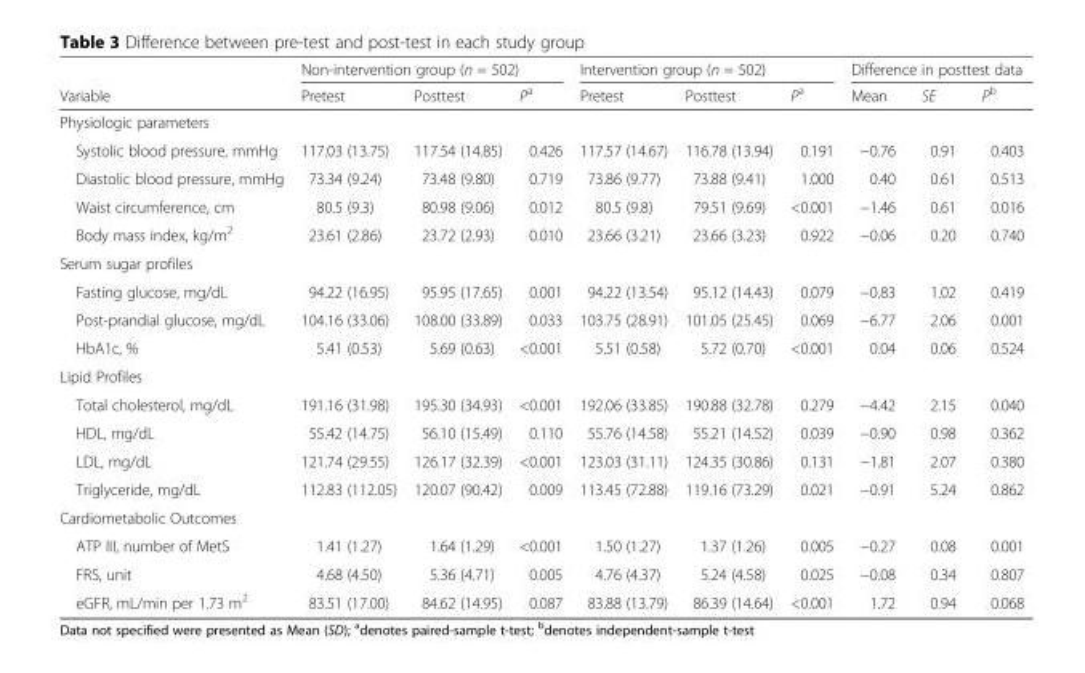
<table><thead><tr><td rowspan="2">Variable</td><td colspan="3">Non-intervention group (n = 502)</td><td colspan="3">Intervention group (n = 502)</td><td colspan="3">Difference in posttest data</td></tr><tr><td>Pretest</td><td>Posttest</td><td>P<sup>a</sup></td><td>Pretest</td><td>Posttest</td><td>P<sup>a</sup></td><td>Mean</td><td>SE</td><td>P<sup>b</sup></td></tr></thead><tbody><tr><td colspan="10">Physiologic parameters</td></tr><tr><td>Systolic blood pressure, mmHg</td><td>117.03 (13.75)</td><td>117.54 (14.85)</td><td>0.426</td><td>117.57 (14.67)</td><td>116.78 (13.94)</td><td>0.191</td><td>−0.76</td><td>0.91</td><td>0.403</td></tr><tr><td>Diastolic blood pressure, mmHg</td><td>73.34 (9.24)</td><td>73.48 (9.80)</td><td>0.719</td><td>73.86 (9.77)</td><td>73.88 (9.41)</td><td>1.000</td><td>0.40</td><td>0.61</td><td>0.513</td></tr><tr><td>Waist circumference, cm</td><td>80.5 (9.3)</td><td>80.98 (9.06)</td><td>0.012</td><td>80.5 (9.8)</td><td>79.51 (9.69)</td><td>&lt;0.001</td><td>−1.46</td><td>0.61</td><td>0.016</td></tr><tr><td>Body mass index, kg/m<sup>2</sup></td><td>23.61 (2.86)</td><td>23.72 (2.93)</td><td>0.010</td><td>23.66 (3.21)</td><td>23.66 (3.23)</td><td>0.922</td><td>−0.06</td><td>0.20</td><td>0.740</td></tr><tr><td colspan="10">Serum sugar profiles</td></tr><tr><td>Fasting glucose, mg/dL</td><td>94.22 (16.95)</td><td>95.95 (17.65)</td><td>0.001</td><td>94.22 (13.54)</td><td>95.12 (14.43)</td><td>0.079</td><td>−0.83</td><td>1.02</td><td>0.419</td></tr><tr><td>Post-prandial glucose, mg/dL</td><td>104.16 (33.06)</td><td>108.00 (33.89)</td><td>0.033</td><td>103.75 (28.91)</td><td>101.05 (25.45)</td><td>0.069</td><td>−6.77</td><td>2.06</td><td>0.001</td></tr><tr><td>HbA1c, %</td><td>5.41 (0.53)</td><td>5.69 (0.63)</td><td>&lt;0.001</td><td>5.51 (0.58)</td><td>5.72 (0.70)</td><td>&lt;0.001</td><td>0.04</td><td>0.06</td><td>0.524</td></tr><tr><td colspan="10">Lipid Profiles</td></tr><tr><td>Total cholesterol, mg/dL</td><td>191.16 (31.98)</td><td>195.30 (34.93)</td><td>&lt;0.001</td><td>192.06 (33.85)</td><td>190.88 (32.78)</td><td>0.279</td><td>−4.42</td><td>2.15</td><td>0.040</td></tr><tr><td>HDL, mg/dL</td><td>55.42 (14.75)</td><td>56.10 (15.49)</td><td>0.110</td><td>55.76 (14.58)</td><td>55.21 (14.52)</td><td>0.039</td><td>−0.90</td><td>0.98</td><td>0.362</td></tr><tr><td>LDL, mg/dL</td><td>121.74 (29.55)</td><td>126.17 (32.39)</td><td>&lt;0.001</td><td>123.03 (31.11)</td><td>124.35 (30.86)</td><td>0.131</td><td>−1.81</td><td>2.07</td><td>0.380</td></tr><tr><td>Triglyceride, mg/dL</td><td>112.83 (112.05)</td><td>120.07 (90.42)</td><td>0.009</td><td>113.45 (72.88)</td><td>119.16 (73.29)</td><td>0.021</td><td>−0.91</td><td>5.24</td><td>0.862</td></tr><tr><td colspan="10">Cardiometabolic Outcomes</td></tr><tr><td>ATP III, number of MetS</td><td>1.41 (1.27)</td><td>1.64 (1.29)</td><td>&lt;0.001</td><td>1.50 (1.27)</td><td>1.37 (1.26)</td><td>0.005</td><td>−0.27</td><td>0.08</td><td>0.001</td></tr><tr><td>FRS, unit</td><td>4.68 (4.50)</td><td>5.36 (4.71)</td><td>0.005</td><td>4.76 (4.37)</td><td>5.24 (4.58)</td><td>0.025</td><td>−0.08</td><td>0.34</td><td>0.807</td></tr><tr><td>eGFR, mL/min per 1.73 m<sup>2</sup></td><td>83.51 (17.00)</td><td>84.62 (14.95)</td><td>0.087</td><td>83.88 (13.79)</td><td>86.39 (14.64)</td><td>&lt;0.001</td><td>1.72</td><td>0.94</td><td>0.068</td></tr></tbody></table>